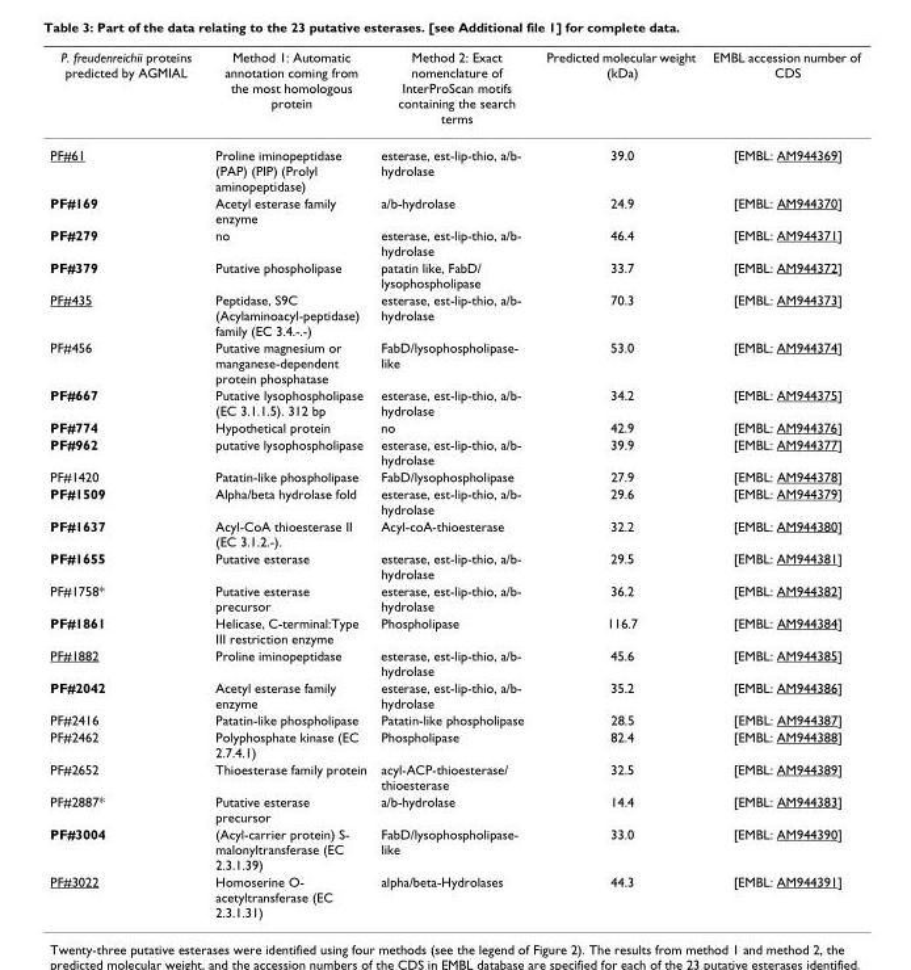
<table><thead><tr><td>P. freudenreichii proteins predicted by AGMIAL</td><td>Method 1: Automatic annotation coming from the most homologous protein</td><td>Method 2: Exact nomenclature of InterProScan motifs containing the search terms</td><td>Predicted molecular weight (kDa)</td><td>EMBL accession number of CDS</td></tr></thead><tbody><tr><td>PF#61</td><td>Proline iminopeptidase (PAP) (PIP) (Prolyl aminopeptidase)</td><td>esterase, est-lip-thio, a/b- hydrolase</td><td>39.0</td><td>[EMBL: AM944369]</td></tr><tr><td>PF#169</td><td>Acetyl esterase family enzyme</td><td>a/b-hydrolase</td><td>24.9</td><td>[EMBL: AM944370]</td></tr><tr><td>PF#279</td><td>no</td><td>esterase, est-lip-thio, a/b- hydrolase</td><td>46.4</td><td>[EMBL: AM944371]</td></tr><tr><td>PF#379</td><td>Putative phospholipase</td><td>patatin like, FabD/ lysophospholipase</td><td>33.7</td><td>[EMBL: AM944372]</td></tr><tr><td>PF#435</td><td>Peptidase, S9C (Acylaminoacyl-peptidase) family (EC 3.4.-.-)</td><td>esterase, est-lip-thio, a/b- hydrolase</td><td>70.3</td><td>[EMBL: AM944373]</td></tr><tr><td>PF#456</td><td>Putative magnesium or manganese-dependent protein phosphatase</td><td>FabD/lysophospholipase- like</td><td>53.0</td><td>[EMBL: AM944374]</td></tr><tr><td>PF#667</td><td>Putative lysophospholipase (EC 3.1.1.5). 312 bp</td><td>esterase, est-lip-thio, a/b- hydrolase</td><td>34.2</td><td>[EMBL: AM944375]</td></tr><tr><td>PF#774</td><td>Hypothetical protein</td><td>no</td><td>42.9</td><td>[EMBL: AM944376]</td></tr><tr><td>PF#962</td><td>putative lysophospholipase</td><td>esterase, est-lip-thio, a/b- hydrolase</td><td>39.9</td><td>[EMBL: AM944377]</td></tr><tr><td>PF#1420</td><td>Patatin-like phospholipase</td><td>FabD/lysophospholipase</td><td>27.9</td><td>[EMBL: AM944378]</td></tr><tr><td>PF#1509</td><td>Alpha/beta hydrolase fold</td><td>esterase, est-lip-thio, a/b- hydrolase</td><td>29.6</td><td>[EMBL: AM944379]</td></tr><tr><td>PF#1637</td><td>Acyl-CoA thioesterase II (EC 3.1.2.-).</td><td>Acyl-coA-thioesterase</td><td>32.2</td><td>[EMBL: AM944380]</td></tr><tr><td>PF#1655</td><td>Putative esterase</td><td>esterase, est-lip-thio, a/b- hydrolase</td><td>29.5</td><td>[EMBL: AM944381]</td></tr><tr><td>PF#1758*</td><td>Putative esterase precursor</td><td>esterase, est-lip-thio, a/b- hydrolase</td><td>36.2</td><td>[EMBL: AM944382]</td></tr><tr><td>PF#1861</td><td>Helicase, C-terminal:Type III restriction enzyme</td><td>Phospholipase</td><td>116.7</td><td>[EMBL: AM944384]</td></tr><tr><td>PF#1882</td><td>Proline iminopeptidase</td><td>esterase, est-lip-thio, a/b- hydrolase</td><td>45.6</td><td>[EMBL: AM944385]</td></tr><tr><td>PF#2042</td><td>Acetyl esterase family enzyme</td><td>esterase, est-lip-thio, a/b- hydrolase</td><td>35.2</td><td>[EMBL: AM944386]</td></tr><tr><td>PF#2416</td><td>Patatin-like phospholipase</td><td>Patatin-like phospholipase</td><td>28.5</td><td>[EMBL: AM944387]</td></tr><tr><td>PF#2462</td><td>Polyphosphate kinase (EC 2.7.4.1)</td><td>Phospholipase</td><td>82.4</td><td>[EMBL: AM944388]</td></tr><tr><td>PF#2652</td><td>Thioesterase family protein</td><td>acyl-ACP-thioesterase/ thioesterase</td><td>32.5</td><td>[EMBL: AM944389]</td></tr><tr><td>PF#2887*</td><td>Putative esterase precursor</td><td>a/b-hydrolase</td><td>14.4</td><td>[EMBL: AM944383]</td></tr><tr><td>PF#3004</td><td>(Acyl-carrier protein) S- malonyltransferase (EC 2.3.1.39)</td><td>FabD/lysophospholipase- like</td><td>33.0</td><td>[EMBL: AM944390]</td></tr><tr><td>PF#3022</td><td>Homoserine O- acetyltransferase (EC 2.3.1.31)</td><td>alpha/beta-Hydrolases</td><td>44.3</td><td>[EMBL: AM944391]</td></tr></tbody></table>